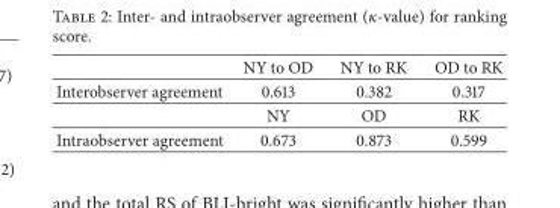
<table><thead><tr><td></td><td>NY to OD</td><td>NY to RK</td><td>OD to RK</td></tr></thead><tbody><tr><td rowspan="2">Interobserver agreement</td><td>0.613</td><td>0.382</td><td>0.317</td></tr><tr><td>NY</td><td>OD</td><td>RK</td></tr><tr><td>Intraobserver agreement</td><td>0.673</td><td>0.873</td><td>0.599</td></tr></tbody></table>